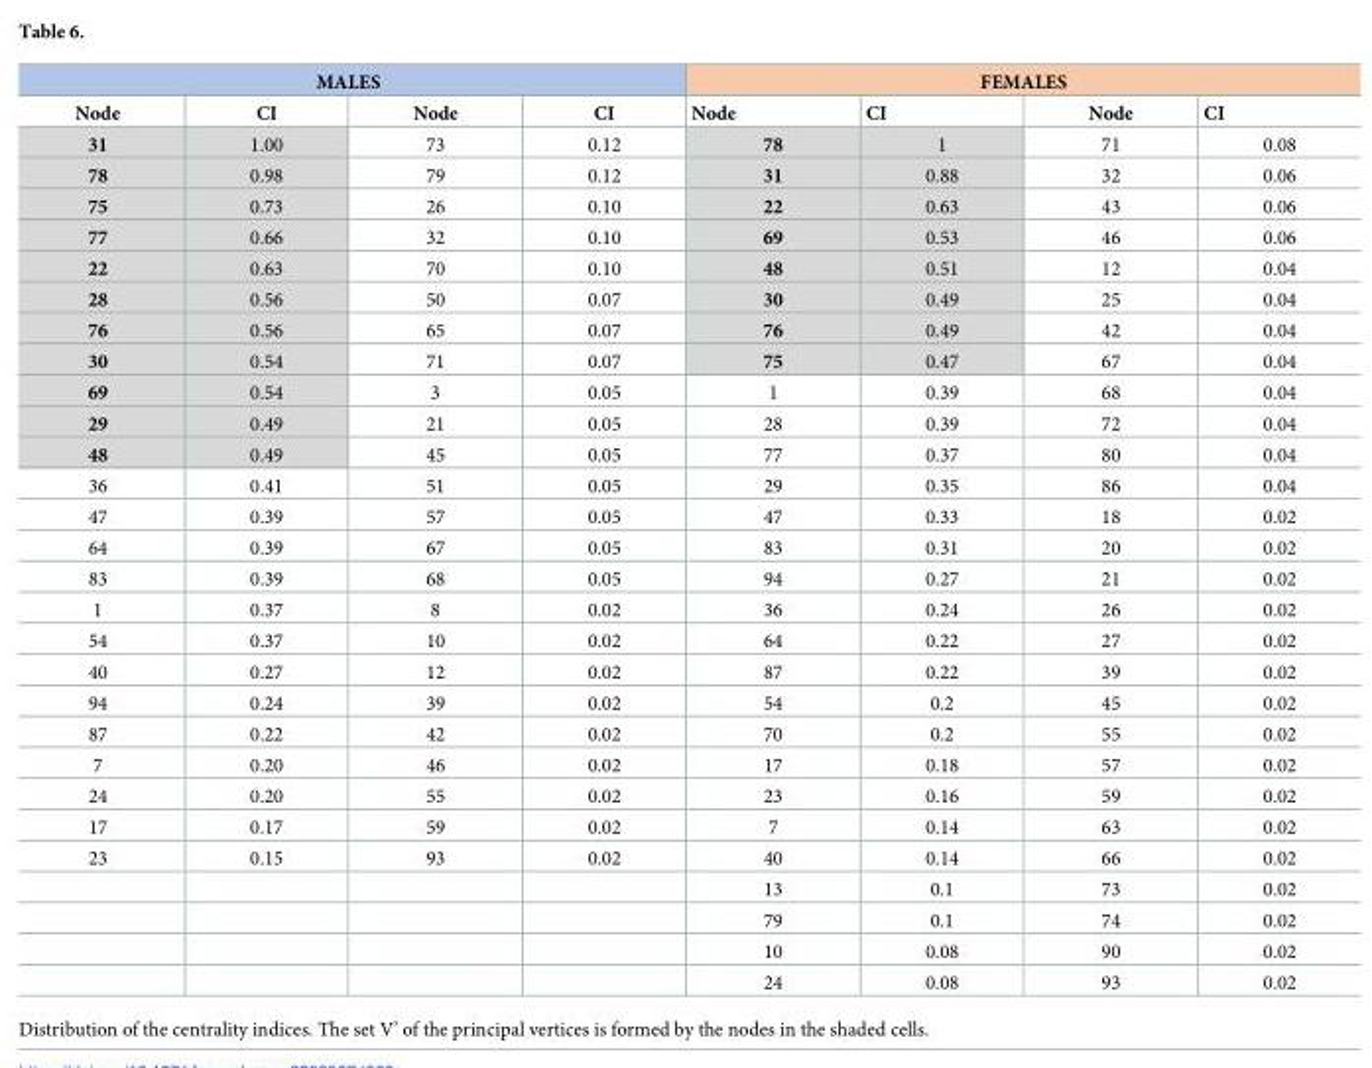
<table><thead><tr><td colspan="4">MALES</td><td colspan="4">FEMALES</td></tr><tr><td>Node</td><td>CI</td><td>Node</td><td>CI</td><td>Node</td><td>CI</td><td>Node</td><td>CI</td></tr></thead><tbody><tr><td>31</td><td>1.00</td><td>73</td><td>0.12</td><td>78</td><td>1</td><td>71</td><td>0.08</td></tr><tr><td>78</td><td>0.98</td><td>79</td><td>0.12</td><td>31</td><td>0.88</td><td>32</td><td>0.06</td></tr><tr><td>75</td><td>0.73</td><td>26</td><td>0.10</td><td>22</td><td>0.63</td><td>43</td><td>0.06</td></tr><tr><td>77</td><td>0.66</td><td>32</td><td>0.10</td><td>69</td><td>0.53</td><td>46</td><td>0.06</td></tr><tr><td>22</td><td>0.63</td><td>70</td><td>0.10</td><td>48</td><td>0.51</td><td>12</td><td>0.04</td></tr><tr><td>28</td><td>0.56</td><td>50</td><td>0.07</td><td>30</td><td>0.49</td><td>25</td><td>0.04</td></tr><tr><td>76</td><td>0.56</td><td>65</td><td>0.07</td><td>76</td><td>0.49</td><td>42</td><td>0.04</td></tr><tr><td>30</td><td>0.54</td><td>71</td><td>0.07</td><td>75</td><td>0.47</td><td>67</td><td>0.04</td></tr><tr><td>69</td><td>0.54</td><td>3</td><td>0.05</td><td>1</td><td>0.39</td><td>68</td><td>0.04</td></tr><tr><td>29</td><td>0.49</td><td>21</td><td>0.05</td><td>28</td><td>0.39</td><td>72</td><td>0.04</td></tr><tr><td>48</td><td>0.49</td><td>45</td><td>0.05</td><td>77</td><td>0.37</td><td>80</td><td>0.04</td></tr><tr><td>36</td><td>0.41</td><td>51</td><td>0.05</td><td>29</td><td>0.35</td><td>86</td><td>0.04</td></tr><tr><td>47</td><td>0.39</td><td>57</td><td>0.05</td><td>47</td><td>0.33</td><td>18</td><td>0.02</td></tr><tr><td>64</td><td>0.39</td><td>67</td><td>0.05</td><td>83</td><td>0.31</td><td>20</td><td>0.02</td></tr><tr><td>83</td><td>0.39</td><td>68</td><td>0.05</td><td>94</td><td>0.27</td><td>21</td><td>0.02</td></tr><tr><td>1</td><td>0.37</td><td>8</td><td>0.02</td><td>36</td><td>0.24</td><td>26</td><td>0.02</td></tr><tr><td>54</td><td>0.37</td><td>10</td><td>0.02</td><td>64</td><td>0.22</td><td>27</td><td>0.02</td></tr><tr><td>40</td><td>0.27</td><td>12</td><td>0.02</td><td>87</td><td>0.22</td><td>39</td><td>0.02</td></tr><tr><td>94</td><td>0.24</td><td>39</td><td>0.02</td><td>54</td><td>0.2</td><td>45</td><td>0.02</td></tr><tr><td>87</td><td>0.22</td><td>42</td><td>0.02</td><td>70</td><td>0.2</td><td>55</td><td>0.02</td></tr><tr><td>7</td><td>0.20</td><td>46</td><td>0.02</td><td>17</td><td>0.18</td><td>57</td><td>0.02</td></tr><tr><td>24</td><td>0.20</td><td>55</td><td>0.02</td><td>23</td><td>0.16</td><td>59</td><td>0.02</td></tr><tr><td>17</td><td>0.17</td><td>59</td><td>0.02</td><td>7</td><td>0.14</td><td>63</td><td>0.02</td></tr><tr><td rowspan="5">23</td><td>0.15</td><td>93</td><td>0.02</td><td>40</td><td>0.14</td><td>66</td><td>0.02</td></tr><tr><td></td><td></td><td></td><td>13</td><td>0.1</td><td>73</td><td>0.02</td></tr><tr><td></td><td></td><td></td><td>79</td><td>0.1</td><td>74</td><td>0.02</td></tr><tr><td></td><td></td><td></td><td>10</td><td>0.08</td><td>90</td><td>0.02</td></tr><tr><td></td><td></td><td></td><td>24</td><td>0.08</td><td>93</td><td>0.02</td></tr></tbody></table>